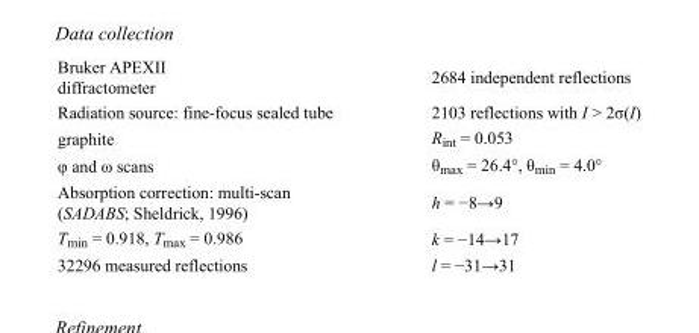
<table><tbody><tr><td>Bruker APEXII diffractometer</td><td>2684 independent reflections</td></tr><tr><td>Radiation source: fine-focus sealed tube</td><td>2103 reflections with I &gt; 2σ(I)</td></tr><tr><td>graphite</td><td>R<sub>int</sub> = 0.053</td></tr><tr><td>φ and ω scans</td><td>θ<sub>max</sub> = 26.4°, θ<sub>min</sub> = 4.0°</td></tr><tr><td>Absorption correction: multi-scan (SADABS; Sheldrick, 1996)</td><td>h = −8→9</td></tr><tr><td>T<sub>min</sub> = 0.918, T<sub>max</sub> = 0.986</td><td>k = −14→17</td></tr><tr><td>32296 measured reflections</td><td>l = −31→31</td></tr></tbody></table>